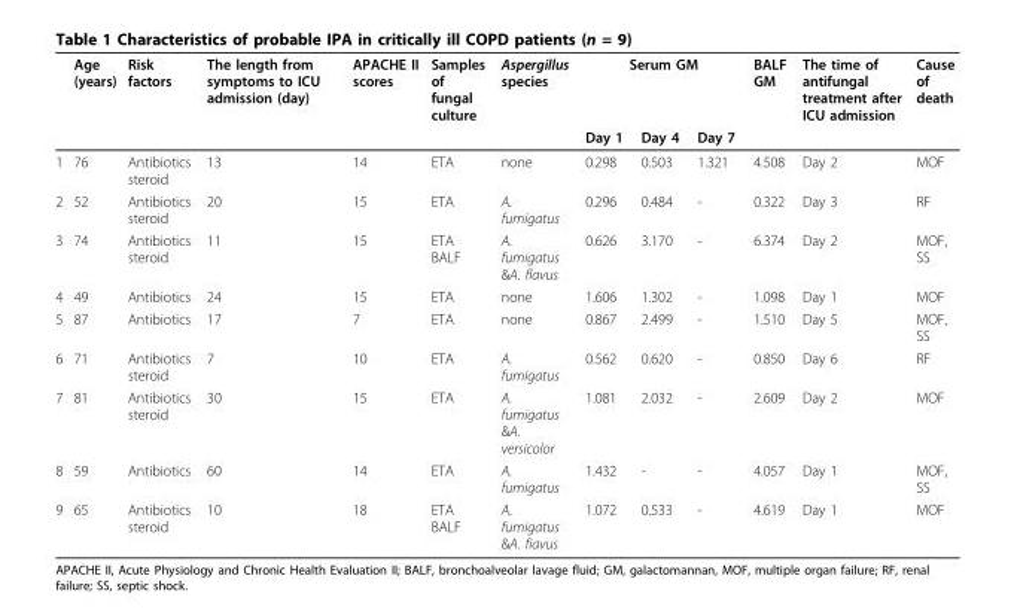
<table><thead><tr><td rowspan="2"></td><td rowspan="2">Age (years)</td><td rowspan="2">Risk factors</td><td rowspan="2">The length from symptoms to ICU admission (day)</td><td rowspan="2">APACHE II scores</td><td rowspan="2">Samples of fungal culture</td><td rowspan="2">Aspergillus species</td><td colspan="3">Serum GM</td><td rowspan="2">BALF GM</td><td rowspan="2">The time of antifungal treatment after ICU admission</td><td rowspan="2">Cause of death</td></tr><tr><td>Day 1</td><td>Day 4</td><td>Day 7</td></tr></thead><tbody><tr><td>1</td><td>76</td><td>Antibiotics steroid</td><td>13</td><td>14</td><td>ETA</td><td>none</td><td>0.298</td><td>0.503</td><td>1.321</td><td>4.508</td><td>Day 2</td><td>MOF</td></tr><tr><td>2</td><td>52</td><td>Antibiotics steroid</td><td>20</td><td>15</td><td>ETA</td><td>A. fumigatus</td><td>0.296</td><td>0.484</td><td>-</td><td>0.322</td><td>Day 3</td><td>RF</td></tr><tr><td>3</td><td>74</td><td>Antibiotics steroid</td><td>11</td><td>15</td><td>ETA BALF</td><td>A. fumigatus &amp;A. flavus</td><td>0.626</td><td>3.170</td><td>-</td><td>6.374</td><td>Day 2</td><td>MOF, SS</td></tr><tr><td>4</td><td>49</td><td>Antibiotics</td><td>24</td><td>15</td><td>ETA</td><td>none</td><td>1.606</td><td>1.302</td><td>-</td><td>1.098</td><td>Day 1</td><td>MOF</td></tr><tr><td>5</td><td>87</td><td>Antibiotics</td><td>17</td><td>7</td><td>ETA</td><td>none</td><td>0.867</td><td>2.499</td><td>-</td><td>1.510</td><td>Day 5</td><td>MOF, SS</td></tr><tr><td>6</td><td>71</td><td>Antibiotics steroid</td><td>7</td><td>10</td><td>ETA</td><td>A. fumigatus</td><td>0.562</td><td>0.620</td><td>-</td><td>0.850</td><td>Day 6</td><td>RF</td></tr><tr><td>7</td><td>81</td><td>Antibiotics steroid</td><td>30</td><td>15</td><td>ETA</td><td>A. fumigatus &amp;A. versicolor</td><td>1.081</td><td>2.032</td><td>-</td><td>2.609</td><td>Day 2</td><td>MOF</td></tr><tr><td>8</td><td>59</td><td>Antibiotics</td><td>60</td><td>14</td><td>ETA</td><td>A. fumigatus</td><td>1.432</td><td>-</td><td>-</td><td>4.057</td><td>Day 1</td><td>MOF, SS</td></tr><tr><td>9</td><td>65</td><td>Antibiotics steroid</td><td>10</td><td>18</td><td>ETA BALF</td><td>A. fumigatus &amp;A. fiavus</td><td>1.072</td><td>0.533</td><td>-</td><td>4.619</td><td>Day 1</td><td>MOF</td></tr></tbody></table>